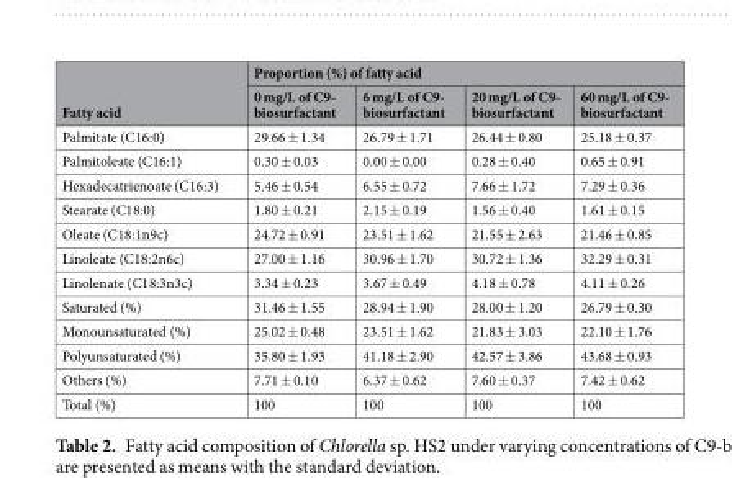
<table><thead><tr><td rowspan="2">Fatty acid</td><td colspan="4">Proportion (%) of fatty acid</td></tr><tr><td>0 mg/L of C9- biosurfactant</td><td>6 mg/L of C9- biosurfactant</td><td>20 mg/L of C9- biosurfactant</td><td>60 mg/L of C9- biosurfactant</td></tr></thead><tbody><tr><td>Palmitate (C16:0)</td><td>29.66 ± 1.34</td><td>26.79 ± 1.71</td><td>26.44 ± 0.80</td><td>25.18 ± 0.37</td></tr><tr><td>Palmitoleate (C16:1)</td><td>0.30 ± 0.03</td><td>0.00 ± 0.00</td><td>0.28 ± 0.40</td><td>0.65 ± 0.91</td></tr><tr><td>Hexadecatrienoate (C16:3)</td><td>5.46 ± 0.54</td><td>6.55 ± 0.72</td><td>7.66 ± 1.72</td><td>7.29 ± 0.36</td></tr><tr><td>Stearate (C18:0)</td><td>1.80 ± 0.21</td><td>2.15 ± 0.19</td><td>1.56 ± 0.40</td><td>1.61 ± 0.15</td></tr><tr><td>Oleate (C18:1n9c)</td><td>24.72 ± 0.91</td><td>23.51 ± 1.62</td><td>21.55 ± 2.63</td><td>21.46 ± 0.85</td></tr><tr><td>Linoleate (C18:2n6c)</td><td>27.00 ± 1.16</td><td>30.96 ± 1.70</td><td>30.72 ± 1.36</td><td>32.29 ± 0.31</td></tr><tr><td>Linolenate (C18:3n3c)</td><td>3.34 ± 0.23</td><td>3.67 ± 0.49</td><td>4.18 ± 0.78</td><td>4.11 ± 0.26</td></tr><tr><td>Saturated (%)</td><td>31.46 ± 1.55</td><td>28.94 ± 1.90</td><td>28.00 ± 1.20</td><td>26.79 ± 0.30</td></tr><tr><td>Monounsaturated (%)</td><td>25.02 ± 0.48</td><td>23.51 ± 1.62</td><td>21.83 ± 3.03</td><td>22.10 ± 1.76</td></tr><tr><td>Polyunsaturated (%)</td><td>35.80 ± 1.93</td><td>41.18 ± 2.90</td><td>42.57 ± 3.86</td><td>43.68 ± 0.93</td></tr><tr><td>Others (%)</td><td>7.71 ± 0.10</td><td>6.37 ± 0.62</td><td>7.60 ± 0.37</td><td>7.42 ± 0.62</td></tr><tr><td>Total (%)</td><td>100</td><td>100</td><td>100</td><td>100</td></tr></tbody></table>